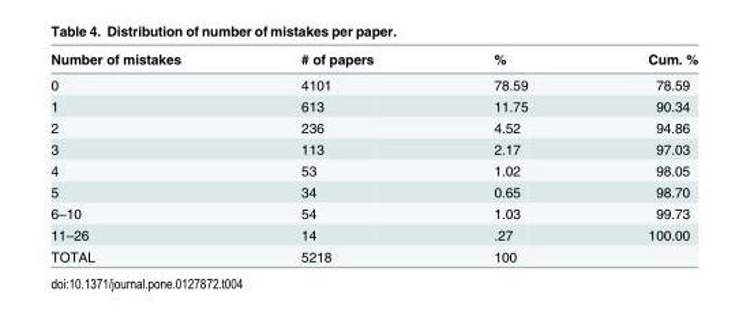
<table><thead><tr><td>Number of mistakes</td><td># of papers</td><td>%</td><td>Cum. %</td></tr></thead><tbody><tr><td>0</td><td>4101</td><td>78.59</td><td>78.59</td></tr><tr><td>1</td><td>613</td><td>11.75</td><td>90.34</td></tr><tr><td>2</td><td>236</td><td>4.52</td><td>94.86</td></tr><tr><td>3</td><td>113</td><td>2.17</td><td>97.03</td></tr><tr><td>4</td><td>53</td><td>1.02</td><td>98.05</td></tr><tr><td>5</td><td>34</td><td>0.65</td><td>98.70</td></tr><tr><td>6–10</td><td>54</td><td>1.03</td><td>99.73</td></tr><tr><td>11–26</td><td>14</td><td>.27</td><td>100.00</td></tr><tr><td>TOTAL</td><td>5218</td><td>100</td><td></td></tr></tbody></table>